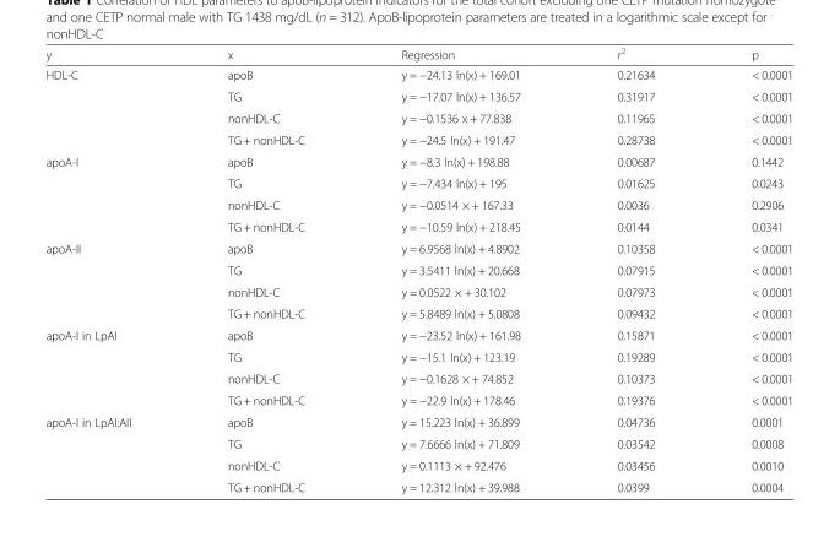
<table><thead><tr><td>y</td><td>x</td><td>Regression</td><td>r<sup>2</sup></td><td>p</td></tr></thead><tbody><tr><td rowspan="4">HDL-C</td><td>apoB</td><td>y = −24.13 ln(x) + 169.01</td><td>0.21634</td><td>&lt; 0.0001</td></tr><tr><td>TG</td><td>y = −17.07 ln(x) + 136.57</td><td>0.31917</td><td>&lt; 0.0001</td></tr><tr><td>nonHDL-C</td><td>y = −0.1536 x + 77.838</td><td>0.11965</td><td>&lt; 0.0001</td></tr><tr><td>TG + nonHDL-C</td><td>y = −24.5 ln(x) + 191.47</td><td>0.28738</td><td>&lt; 0.0001</td></tr><tr><td rowspan="4">apoA-I</td><td>apoB</td><td>y = −8.3 ln(x) + 198.88</td><td>0.00687</td><td>0.1442</td></tr><tr><td>TG</td><td>y = −7.434 ln(x) + 195</td><td>0.01625</td><td>0.0243</td></tr><tr><td>nonHDL-C</td><td>y = −0.0514 × + 167.33</td><td>0.0036</td><td>0.2906</td></tr><tr><td>TG + nonHDL-C</td><td>y = −10.59 ln(x) + 218.45</td><td>0.0144</td><td>0.0341</td></tr><tr><td rowspan="4">apoA-II</td><td>apoB</td><td>y = 6.9568 ln(x) + 4.8902</td><td>0.10358</td><td>&lt; 0.0001</td></tr><tr><td>TG</td><td>y = 3.5411 ln(x) + 20.668</td><td>0.07915</td><td>&lt; 0.0001</td></tr><tr><td>nonHDL-C</td><td>y = 0.0522 × + 30.102</td><td>0.07973</td><td>&lt; 0.0001</td></tr><tr><td>TG + nonHDL-C</td><td>y = 5.8489 ln(x) + 5.0808</td><td>0.09432</td><td>&lt; 0.0001</td></tr><tr><td rowspan="4">apoA-I in LpAI</td><td>apoB</td><td>y = −23.52 ln(x) + 161.98</td><td>0.15871</td><td>&lt; 0.0001</td></tr><tr><td>TG</td><td>y = −15.1 ln(x) + 123.19</td><td>0.19289</td><td>&lt; 0.0001</td></tr><tr><td>nonHDL-C</td><td>y = −0.1628 × + 74.852</td><td>0.10373</td><td>&lt; 0.0001</td></tr><tr><td>TG + nonHDL-C</td><td>y = −22.9 ln(x) + 178.46</td><td>0.19376</td><td>&lt; 0.0001</td></tr><tr><td rowspan="4">apoA-I in LpAI:AII</td><td>apoB</td><td>y = 15.223 ln(x) + 36.899</td><td>0.04736</td><td>0.0001</td></tr><tr><td>TG</td><td>y = 7.6666 ln(x) + 71.809</td><td>0.03542</td><td>0.0008</td></tr><tr><td>nonHDL-C</td><td>y = 0.1113 × + 92.476</td><td>0.03456</td><td>0.0010</td></tr><tr><td>TG + nonHDL-C</td><td>y = 12.312 ln(x) + 39.988</td><td>0.0399</td><td>0.0004</td></tr></tbody></table>